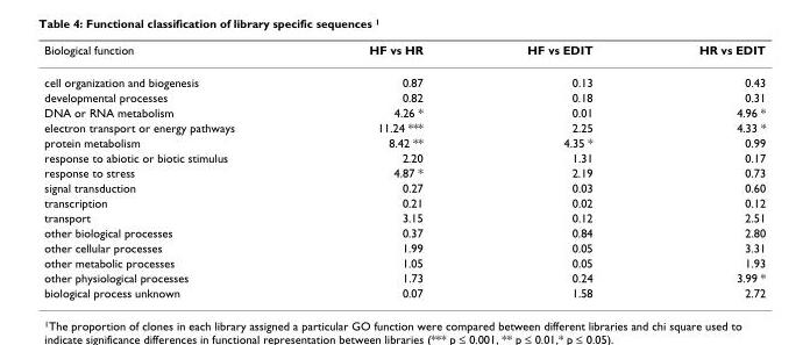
<table><thead><tr><td>Biological function</td><td>HF vs HR</td><td>HF vs EDIT</td><td>HR vs EDIT</td></tr></thead><tbody><tr><td>cell organization and biogenesis</td><td>0.87</td><td>0.13</td><td>0.43</td></tr><tr><td>developmental processes</td><td>0.82</td><td>0.18</td><td>0.31</td></tr><tr><td>DNA or RNA metabolism</td><td>4.26 *</td><td>0.01</td><td>4.96 *</td></tr><tr><td>electron transport or energy pathways</td><td>11.24 ***</td><td>2.25</td><td>4.33 *</td></tr><tr><td>protein metabolism</td><td>8.42 **</td><td>4.35 *</td><td>0.99</td></tr><tr><td>response to abiotic or biotic stimulus</td><td>2.20</td><td>1.31</td><td>0.17</td></tr><tr><td>response to stress</td><td>4.87 *</td><td>2.19</td><td>0.73</td></tr><tr><td>signal transduction</td><td>0.27</td><td>0.03</td><td>0.60</td></tr><tr><td>transcription</td><td>0.21</td><td>0.02</td><td>0.12</td></tr><tr><td>transport</td><td>3.15</td><td>0.12</td><td>2.51</td></tr><tr><td>other biological processes</td><td>0.37</td><td>0.84</td><td>2.80</td></tr><tr><td>other cellular processes</td><td>1.99</td><td>0.05</td><td>3.31</td></tr><tr><td>other metabolic processes</td><td>1.05</td><td>0.05</td><td>1.93</td></tr><tr><td>other physiological processes</td><td>1.73</td><td>0.24</td><td>3.99 *</td></tr><tr><td>biological process unknown</td><td>0.07</td><td>1.58</td><td>2.72</td></tr></tbody></table>